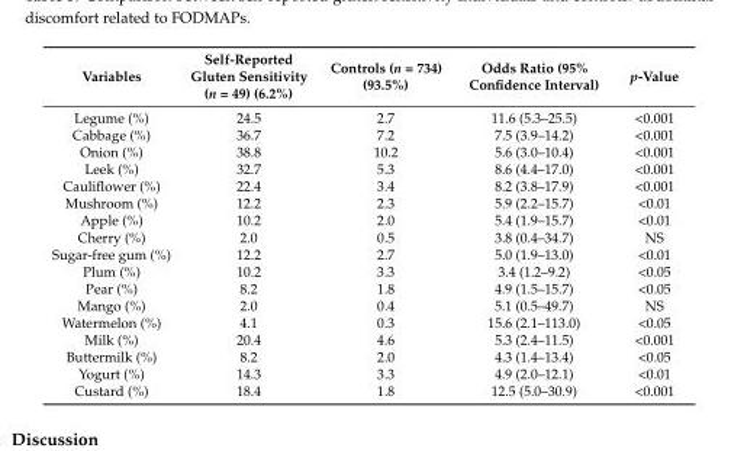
<table><thead><tr><td>Variables</td><td>Self-Reported Gluten Sensitivity (n = 49) (6.2%)</td><td>Controls (n = 734) (93.5%)</td><td>Odds Ratio (95% Confidence Interval)</td><td>p-Value</td></tr></thead><tbody><tr><td>Legume (%)</td><td>24.5</td><td>2.7</td><td>11.6 (5.3–25.5)</td><td>&lt;0.001</td></tr><tr><td>Cabbage (%)</td><td>36.7</td><td>7.2</td><td>7.5 (3.9–14.2)</td><td>&lt;0.001</td></tr><tr><td>Onion (%)</td><td>38.8</td><td>10.2</td><td>5.6 (3.0–10.4)</td><td>&lt;0.001</td></tr><tr><td>Leek (%)</td><td>32.7</td><td>5.3</td><td>8.6 (4.4–17.0)</td><td>&lt;0.001</td></tr><tr><td>Cauliflower (%)</td><td>22.4</td><td>3.4</td><td>8.2 (3.8–17.9)</td><td>&lt;0.001</td></tr><tr><td>Mushroom (%)</td><td>12.2</td><td>2.3</td><td>5.9 (2.2–15.7)</td><td>&lt;0.01</td></tr><tr><td>Apple (%)</td><td>10.2</td><td>2.0</td><td>5.4 (1.9–15.7)</td><td>&lt;0.01</td></tr><tr><td>Cherry (%)</td><td>2.0</td><td>0.5</td><td>3.8 (0.4–34.7)</td><td>NS</td></tr><tr><td>Sugar-free gum (%)</td><td>12.2</td><td>2.7</td><td>5.0 (1.9–13.0)</td><td>&lt;0.01</td></tr><tr><td>Plum (%)</td><td>10.2</td><td>3.3</td><td>3.4 (1.2–9.2)</td><td>&lt;0.05</td></tr><tr><td>Pear (%)</td><td>8.2</td><td>1.8</td><td>4.9 (1.5–15.7)</td><td>&lt;0.05</td></tr><tr><td>Mango (%)</td><td>2.0</td><td>0.4</td><td>5.1 (0.5–49.7)</td><td>NS</td></tr><tr><td>Watermelon (%)</td><td>4.1</td><td>0.3</td><td>15.6 (2.1–113.0)</td><td>&lt;0.05</td></tr><tr><td>Milk (%)</td><td>20.4</td><td>4.6</td><td>5.3 (2.4–11.5)</td><td>&lt;0.001</td></tr><tr><td>Buttermilk (%)</td><td>8.2</td><td>2.0</td><td>4.3 (1.4–13.4)</td><td>&lt;0.05</td></tr><tr><td>Yogurt (%)</td><td>14.3</td><td>3.3</td><td>4.9 (2.0–12.1)</td><td>&lt;0.01</td></tr><tr><td>Custard (%)</td><td>18.4</td><td>1.8</td><td>12.5 (5.0–30.9)</td><td>&lt;0.001</td></tr></tbody></table>